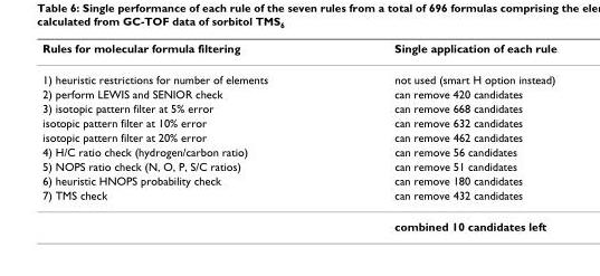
<table><thead><tr><td>Rules for molecular formula filtering</td><td>Single application of each rule</td></tr></thead><tbody><tr><td>1) heuristic restrictions for number of elements</td><td>not used (smart H option instead)</td></tr><tr><td>2) perform LEWIS and SENIOR check</td><td>can remove 420 candidates</td></tr><tr><td>3) isotopic pattern filter at 5% error</td><td>can remove 668 candidates</td></tr><tr><td>isotopic pattern filter at 10% error</td><td>can remove 632 candidates</td></tr><tr><td>isotopic pattern filter at 20% error</td><td>can remove 462 candidates</td></tr><tr><td>4) H/C ratio check (hydrogen/carbon ratio)</td><td>can remove 56 candidates</td></tr><tr><td>5) NOPS ratio check (N, O, P, S/C ratios)</td><td>can remove 51 candidates</td></tr><tr><td>6) heuristic HNOPS probability check</td><td>can remove 180 candidates</td></tr><tr><td rowspan="2">7) TMS check</td><td>can remove 432 candidates</td></tr><tr><td>combined 10 candidates left</td></tr></tbody></table>